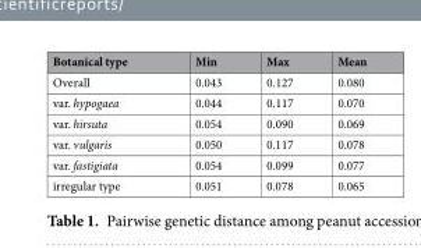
<table><thead><tr><td>Botanical type</td><td>Min</td><td>Max</td><td>Mean</td></tr></thead><tbody><tr><td>Overall</td><td>0.043</td><td>0.127</td><td>0.080</td></tr><tr><td>var. hypogaea</td><td>0.044</td><td>0.117</td><td>0.070</td></tr><tr><td>var. hirsuta</td><td>0.054</td><td>0.090</td><td>0.069</td></tr><tr><td>var. vulgaris</td><td>0.050</td><td>0.117</td><td>0.078</td></tr><tr><td>var. fastigiata</td><td>0.054</td><td>0.099</td><td>0.077</td></tr><tr><td>irregular type</td><td>0.051</td><td>0.078</td><td>0.065</td></tr></tbody></table>